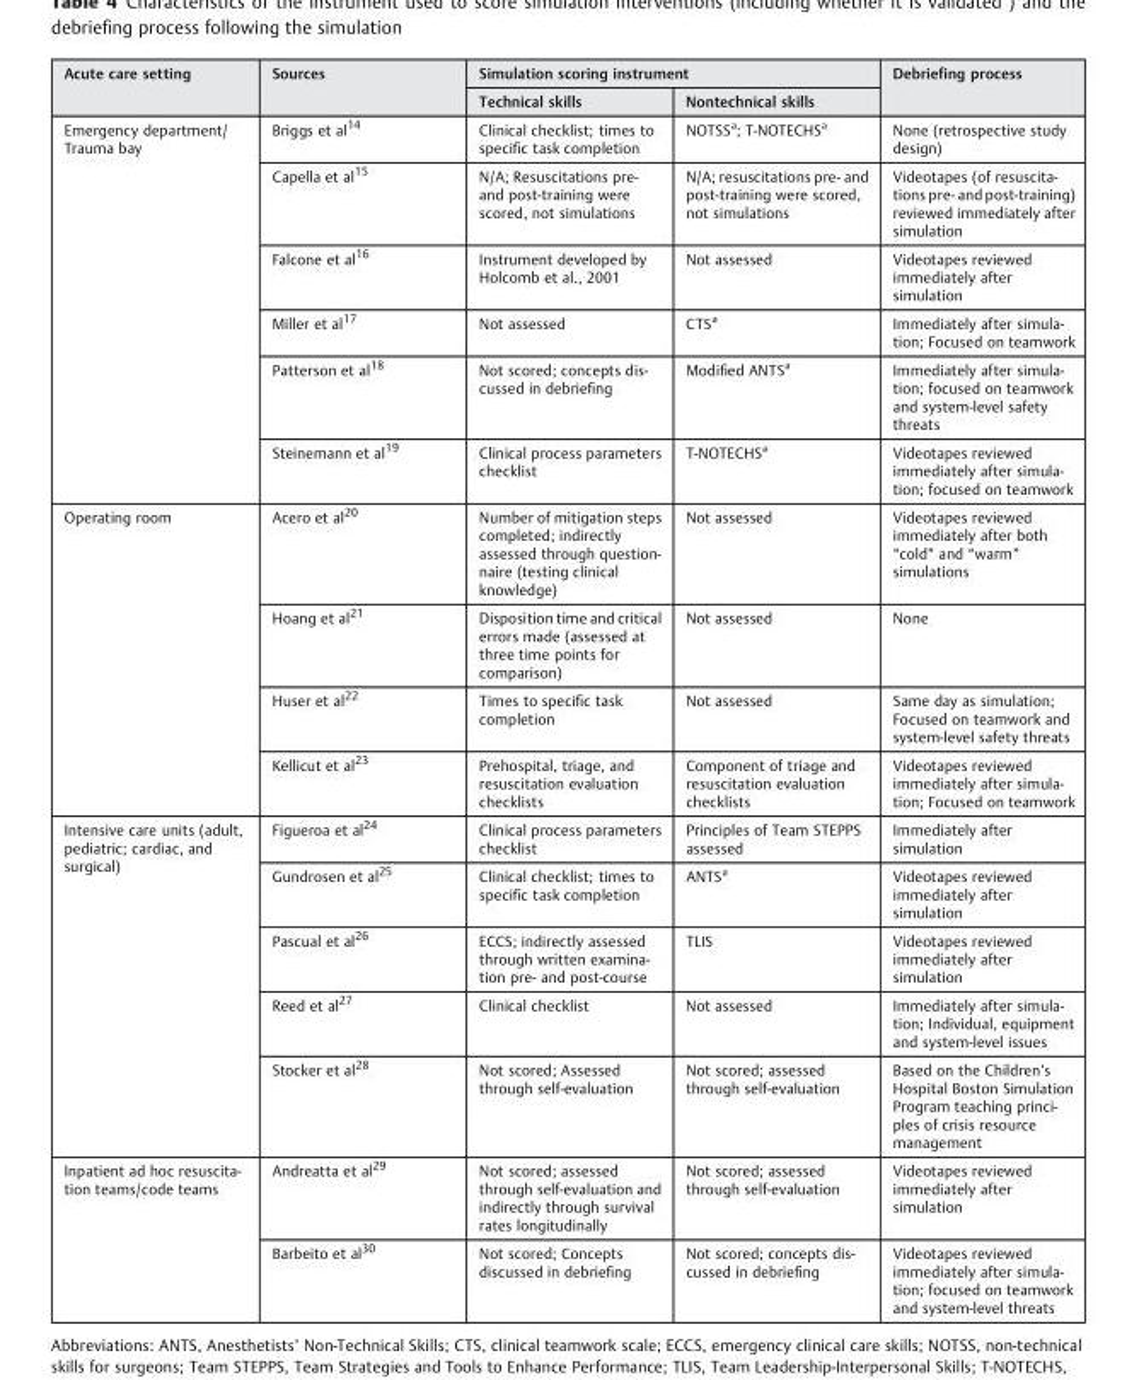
<table><thead><tr><td rowspan="2">Acute care setting</td><td rowspan="2">Sources</td><td colspan="2">Simulation scoring instrument</td><td rowspan="2">Debriefing process</td></tr><tr><td>Technical skills</td><td>Nontechnical skills</td></tr></thead><tbody><tr><td rowspan="6">Emergency department/ Trauma bay</td><td>Briggs et al14</td><td>Clinical checklist; times to specific task completion</td><td>NOTSSa; T-NOTECHSa</td><td>None (retrospective study design)</td></tr><tr><td>Capella et al15</td><td>N/A; Resuscitations pre- and post-training were scored, not simulations</td><td>N/A; resuscitations pre- and post-training were scored, not simulations</td><td>Videotapes (of resuscita- tions pre- and post-training) reviewed immediately after simulation</td></tr><tr><td>Falcone et al16</td><td>Instrument developed by Holcomb et al., 2001</td><td>Not assessed</td><td>Videotapes reviewed immediately after simulation</td></tr><tr><td>Miller et al17</td><td>Not assessed</td><td>CTSa</td><td>Immediately after simula- tion; Focused on teamwork</td></tr><tr><td>Patterson et al18</td><td>Not scored; concepts dis- cussed in debriefing</td><td>Modified ANTSa</td><td>Immediately after simula- tion; focused on teamwork and system-level safety threats</td></tr><tr><td>Steinemann et al19</td><td>Clinical process parameters checklist</td><td>T-NOTECHSa</td><td>Videotapes reviewed immediately after simula- tion; focused on teamwork</td></tr><tr><td rowspan="4">Operating room</td><td>Acero et al20</td><td>Number of mitigation steps completed; indirectly assessed through question- naire (testing clinical knowledge)</td><td>Not assessed</td><td>Videotapes reviewed immediately after both “cold” and “warm” simulations</td></tr><tr><td>Hoang et al21</td><td>Disposition time and critical errors made (assessed at three time points for comparison)</td><td>Not assessed</td><td>None</td></tr><tr><td>Huser et al22</td><td>Times to specific task completion</td><td>Not assessed</td><td>Same day as simulation; Focused on teamwork and system-level safety threats</td></tr><tr><td>Kellicut et al23</td><td>Prehospital, triage, and resuscitation evaluation checklists</td><td>Component of triage and resuscitation evaluation checklists</td><td>Videotapes reviewed immediately after simula- tion; Focused on teamwork</td></tr><tr><td rowspan="5">Intensive care units (adult, pediatric; cardiac, and surgical)</td><td>Figueroa et al24</td><td>Clinical process parameters checklist</td><td>Principles of Team STEPPS assessed</td><td>Immediately after simulation</td></tr><tr><td>Gundrosen et al25</td><td>Clinical checklist; times to specific task completion</td><td>ANTSa</td><td>Videotapes reviewed immediately after simulation</td></tr><tr><td>Pascual et al26</td><td>ECCS; indirectly assessed through written examina- tion pre- and post-course</td><td>TLIS</td><td>Videotapes reviewed immediately after simulation</td></tr><tr><td>Reed et al27</td><td>Clinical checklist</td><td>Not assessed</td><td>Immediately after simula- tion; Individual, equipment and system-level issues</td></tr><tr><td>Stocker et al28</td><td>Not scored; Assessed through self-evaluation</td><td>Not scored; assessed through self-evaluation</td><td>Based on the Children’s Hospital Boston Simulation Program teaching princi- ples of crisis resource management</td></tr><tr><td rowspan="2">Inpatient ad hoc resuscita- tion teams/code teams</td><td>Andreatta et al29</td><td>Not scored; assessed through self-evaluation and indirectly through survival rates longitudinally</td><td>Not scored; assessed through self-evaluation</td><td>Videotapes reviewed immediately after simulation</td></tr><tr><td>Barbeito et al30</td><td>Not scored; Concepts discussed in debriefing</td><td>Not scored; concepts dis- cussed in debriefing</td><td>Videotapes reviewed immediately after simula- tion; focused on teamwork and system-level threats</td></tr></tbody></table>